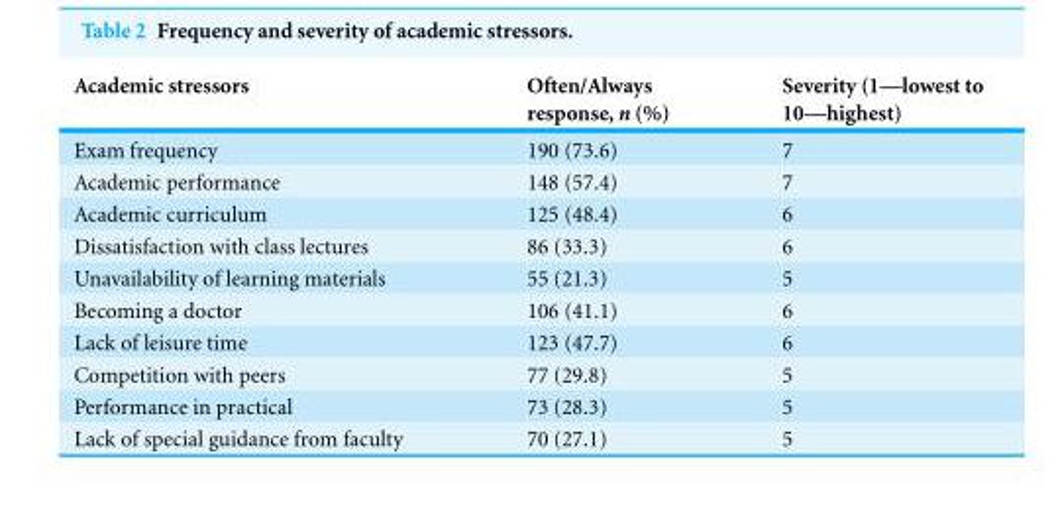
<table><thead><tr><td>Academic stressors</td><td>Often/Always response, n (%)</td><td>Severity (1—lowest to 10—highest)</td></tr></thead><tbody><tr><td>Exam frequency</td><td>190 (73.6)</td><td>7</td></tr><tr><td>Academic performance</td><td>148 (57.4)</td><td>7</td></tr><tr><td>Academic curriculum</td><td>125 (48.4)</td><td>6</td></tr><tr><td>Dissatisfaction with class lectures</td><td>86 (33.3)</td><td>6</td></tr><tr><td>Unavailability of learning materials</td><td>55 (21.3)</td><td>5</td></tr><tr><td>Becoming a doctor</td><td>106 (41.1)</td><td>6</td></tr><tr><td>Lack of leisure time</td><td>123 (47.7)</td><td>6</td></tr><tr><td>Competition with peers</td><td>77 (29.8)</td><td>5</td></tr><tr><td>Performance in practical</td><td>73 (28.3)</td><td>5</td></tr><tr><td>Lack of special guidance from faculty</td><td>70 (27.1)</td><td>5</td></tr></tbody></table>